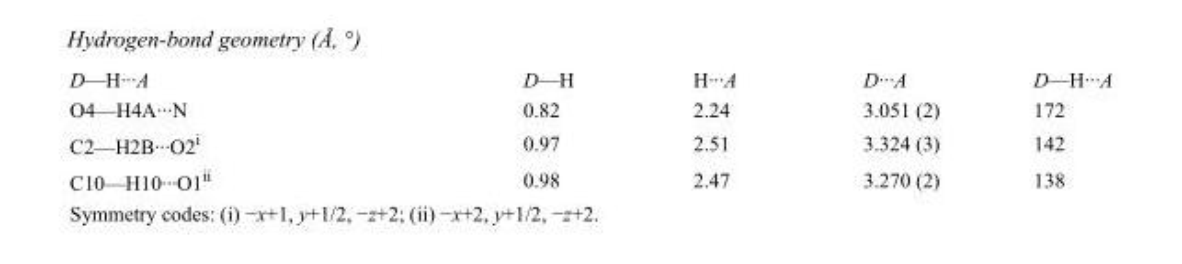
<table><tbody><tr><td>D—H···A</td><td>D—H</td><td>H···A</td><td>D···A</td><td>D—H···A</td></tr><tr><td>O4—H4A···N</td><td>0.82</td><td>2.24</td><td>3.051 (2)</td><td>172</td></tr><tr><td>C2—H2B···O2<sup>i</sup></td><td>0.97</td><td>2.51</td><td>3.324 (3)</td><td>142</td></tr><tr><td>C10—H10···O1<sup>ii</sup></td><td>0.98</td><td>2.47</td><td>3.270 (2)</td><td>138</td></tr></tbody></table>